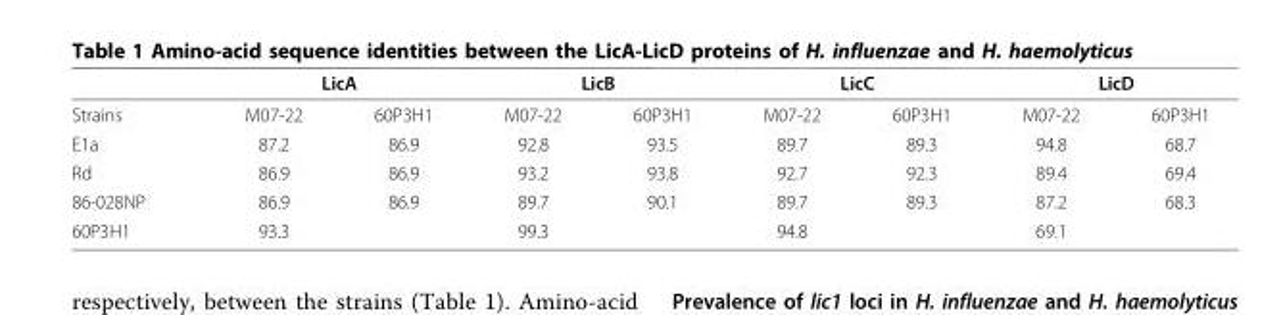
<table><thead><tr><td rowspan="2">Strains</td><td colspan="2">LicA</td><td colspan="2">LicB</td><td colspan="2">LicC</td><td colspan="2">LicD</td></tr><tr><td>M07-22</td><td>60P3H1</td><td>M07-22</td><td>60P3H1</td><td>M07-22</td><td>60P3H1</td><td>M07-22</td><td>60P3H1</td></tr></thead><tbody><tr><td>E1a</td><td>87.2</td><td>86.9</td><td>92.8</td><td>93.5</td><td>89.7</td><td>89.3</td><td>94.8</td><td>68.7</td></tr><tr><td>Rd</td><td>86.9</td><td>86.9</td><td>93.2</td><td>93.8</td><td>92.7</td><td>92.3</td><td>89.4</td><td>69.4</td></tr><tr><td>86-028NP</td><td>86.9</td><td>86.9</td><td>89.7</td><td>90.1</td><td>89.7</td><td>89.3</td><td>87.2</td><td>68.3</td></tr><tr><td>60P3H1</td><td>93.3</td><td></td><td>99.3</td><td></td><td>94.8</td><td></td><td>69.1</td><td></td></tr></tbody></table>